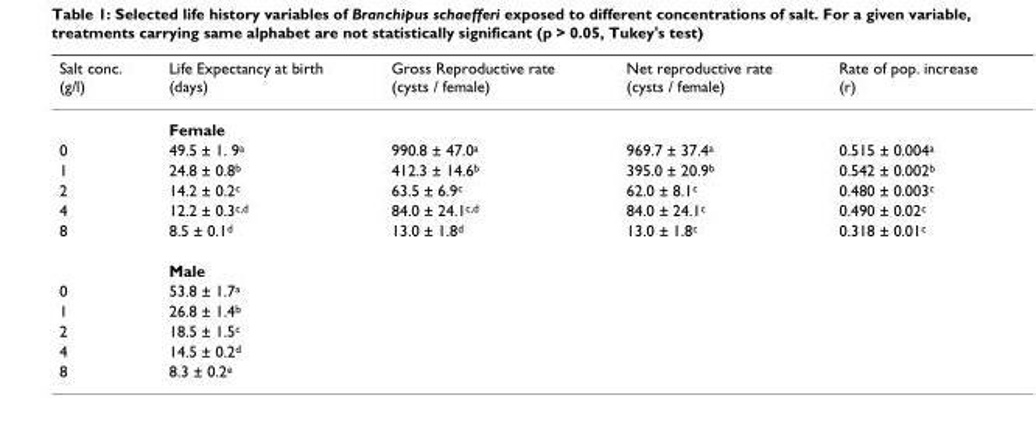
<table><thead><tr><td>Salt conc. (g/l)</td><td>Life Expectancy at birth (days)</td><td>Gross Reproductive rate (cysts / female)</td><td>Net reproductive rate (cysts / female)</td><td>Rate of pop. increase (r)</td></tr></thead><tbody><tr><td></td><td>Female</td><td></td><td></td><td></td></tr><tr><td>0</td><td>49.5 ± 1. 9<sup>a</sup></td><td>990.8 ± 47.0<sup>a</sup></td><td>969.7 ± 37.4<sup>a</sup></td><td>0.515 ± 0.004<sup>a</sup></td></tr><tr><td>1</td><td>24.8 ± 0.8<sup>b</sup></td><td>412.3 ± 14.6<sup>b</sup></td><td>395.0 ± 20.9<sup>b</sup></td><td>0.542 ± 0.002<sup>b</sup></td></tr><tr><td>2</td><td>14.2 ± 0.2<sup>c</sup></td><td>63.5 ± 6.9<sup>c</sup></td><td>62.0 ± 8.1<sup>c</sup></td><td>0.480 ± 0.003<sup>c</sup></td></tr><tr><td>4</td><td>12.2 ± 0.3<sup>c,d</sup></td><td>84.0 ± 24.1<sup>c,d</sup></td><td>84.0 ± 24.1<sup>c</sup></td><td>0.490 ± 0.02<sup>c</sup></td></tr><tr><td rowspan="2">8</td><td>8.5 ± 0.1<sup>d</sup></td><td>13.0 ± 1.8<sup>d</sup></td><td>13.0 ± 1.8<sup>c</sup></td><td>0.318 ± 0.01<sup>c</sup></td></tr><tr><td>Male</td><td></td><td></td><td></td></tr><tr><td>0</td><td>53.8 ± 1.7<sup>a</sup></td><td></td><td></td><td></td></tr><tr><td>1</td><td>26.8 ± 1.4<sup>b</sup></td><td></td><td></td><td></td></tr><tr><td>2</td><td>18.5 ± 1.5<sup>c</sup></td><td></td><td></td><td></td></tr><tr><td>4</td><td>14.5 ± 0.2<sup>d</sup></td><td></td><td></td><td></td></tr><tr><td>8</td><td>8.3 ± 0.2<sup>e</sup></td><td></td><td></td><td></td></tr></tbody></table>